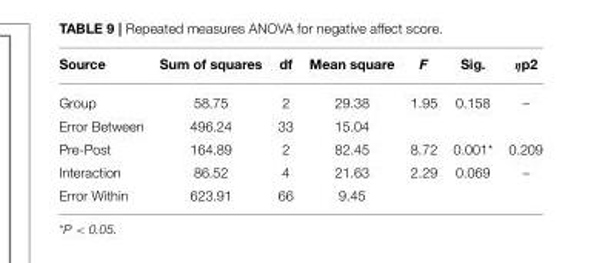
<table><thead><tr><td>Source</td><td>Sum of squares</td><td>df</td><td>Mean square</td><td>F</td><td>Sig.</td><td>ηp2</td></tr></thead><tbody><tr><td>Group</td><td>58.75</td><td>2</td><td>29.38</td><td>1.95</td><td>0.158</td><td>–</td></tr><tr><td>Error Between</td><td>496.24</td><td>33</td><td>15.04</td><td></td><td></td><td></td></tr><tr><td>Pre-Post</td><td>164.89</td><td>2</td><td>82.45</td><td>8.72</td><td>0.001*</td><td>0.209</td></tr><tr><td>Interaction</td><td>86.52</td><td>4</td><td>21.63</td><td>2.29</td><td>0.069</td><td>–</td></tr><tr><td>Error Within</td><td>623.91</td><td>66</td><td>9.45</td><td></td><td></td><td></td></tr></tbody></table>